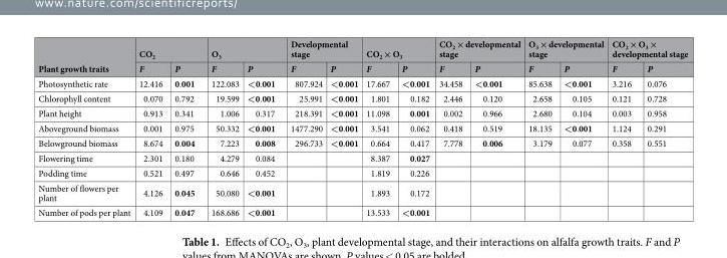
<table><thead><tr><td rowspan="2">Plant growth traits</td><td colspan="2">CO<sub>2</sub></td><td colspan="2">O<sub>3</sub></td><td colspan="2">Developmental stage</td><td colspan="2">CO<sub>2</sub> × O<sub>3</sub></td><td colspan="2">CO<sub>2</sub> × developmental stage</td><td colspan="2">O<sub>3</sub> × developmental stage</td><td colspan="2">CO<sub>2</sub> × O<sub>3</sub> × developmental stage</td></tr><tr><td>F</td><td>P</td><td>F</td><td>P</td><td>F</td><td>P</td><td>F</td><td>P</td><td>F</td><td>P</td><td>F</td><td>P</td><td>F</td><td>P</td></tr></thead><tbody><tr><td>Photosynthetic rate</td><td>12.416</td><td>0.001</td><td>122.083</td><td>&lt;0.001</td><td>807.924</td><td>&lt;0.001</td><td>17.667</td><td>&lt;0.001</td><td>34.458</td><td>&lt;0.001</td><td>85.638</td><td>&lt;0.001</td><td>3.216</td><td>0.076</td></tr><tr><td>Chlorophyll content</td><td>0.070</td><td>0.792</td><td>19.599</td><td>&lt;0.001</td><td>25.991</td><td>&lt;0.001</td><td>1.801</td><td>0.182</td><td>2.446</td><td>0.120</td><td>2.658</td><td>0.105</td><td>0.121</td><td>0.728</td></tr><tr><td>Plant height</td><td>0.913</td><td>0.341</td><td>1.006</td><td>0.317</td><td>218.391</td><td>&lt;0.001</td><td>11.098</td><td>0.001</td><td>0.002</td><td>0.966</td><td>2.680</td><td>0.104</td><td>0.003</td><td>0.958</td></tr><tr><td>Aboveground biomass</td><td>0.001</td><td>0.975</td><td>50.332</td><td>&lt;0.001</td><td>1477.290</td><td>&lt;0.001</td><td>3.541</td><td>0.062</td><td>0.418</td><td>0.519</td><td>18.135</td><td>&lt;0.001</td><td>1.124</td><td>0.291</td></tr><tr><td>Belowground biomass</td><td>8.674</td><td>0.004</td><td>7.223</td><td>0.008</td><td>296.733</td><td>&lt;0.001</td><td>0.664</td><td>0.417</td><td>7.778</td><td>0.006</td><td>3.179</td><td>0.077</td><td>0.358</td><td>0.551</td></tr><tr><td>Flowering time</td><td>2.301</td><td>0.180</td><td>4.279</td><td>0.084</td><td></td><td></td><td>8.387</td><td>0.027</td><td></td><td></td><td></td><td></td><td></td><td></td></tr><tr><td>Podding time</td><td>0.521</td><td>0.497</td><td>0.646</td><td>0.452</td><td></td><td></td><td>1.819</td><td>0.226</td><td></td><td></td><td></td><td></td><td></td><td></td></tr><tr><td>Number of flowers per plant</td><td>4.126</td><td>0.045</td><td>50.080</td><td>&lt;0.001</td><td></td><td></td><td>1.893</td><td>0.172</td><td></td><td></td><td></td><td></td><td></td><td></td></tr><tr><td>Number of pods per plant</td><td>4.109</td><td>0.047</td><td>168.686</td><td>&lt;0.001</td><td></td><td></td><td>13.533</td><td>&lt;0.001</td><td></td><td></td><td></td><td></td><td></td><td></td></tr></tbody></table>